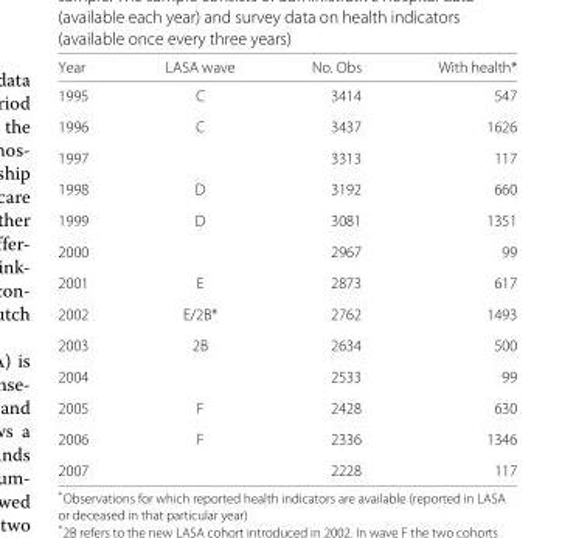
<table><thead><tr><td>Year</td><td>LASA wave</td><td>No. Obs</td><td>With health*</td></tr></thead><tbody><tr><td>1995</td><td>C</td><td>3414</td><td>547</td></tr><tr><td>1996</td><td>C</td><td>3437</td><td>1626</td></tr><tr><td>1997</td><td></td><td>3313</td><td>117</td></tr><tr><td>1998</td><td>D</td><td>3192</td><td>660</td></tr><tr><td>1999</td><td>D</td><td>3081</td><td>1351</td></tr><tr><td>2000</td><td></td><td>2967</td><td>99</td></tr><tr><td>2001</td><td>E</td><td>2873</td><td>617</td></tr><tr><td>2002</td><td>E/2B*</td><td>2762</td><td>1493</td></tr><tr><td>2003</td><td>2B</td><td>2634</td><td>500</td></tr><tr><td>2004</td><td></td><td>2533</td><td>99</td></tr><tr><td>2005</td><td>F</td><td>2428</td><td>630</td></tr><tr><td>2006</td><td>F</td><td>2336</td><td>1346</td></tr><tr><td>2007</td><td></td><td>2228</td><td>117</td></tr></tbody></table>